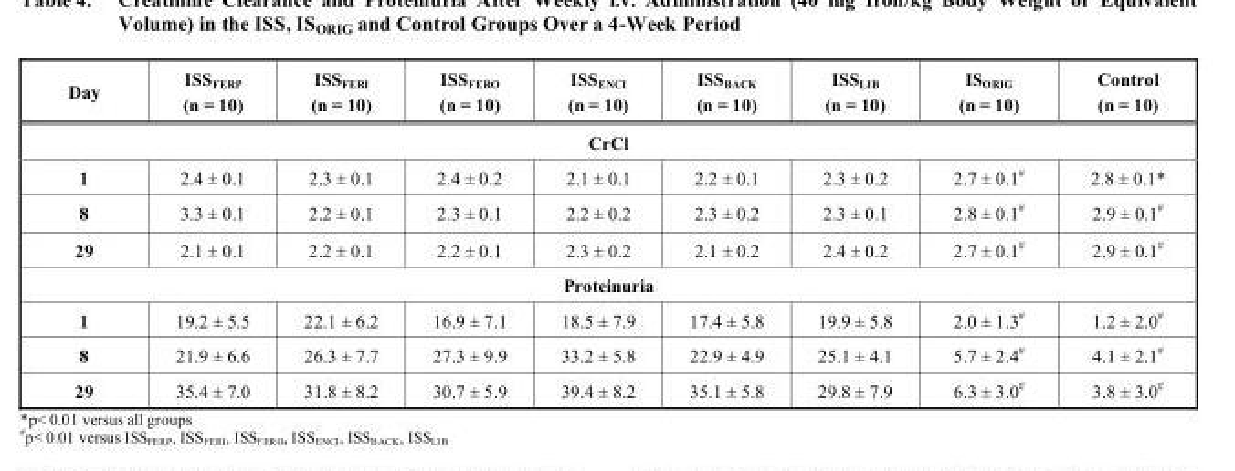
<table><thead><tr><td>Day</td><td>ISS<sub>FERP</sub> (n = 10)</td><td>ISS<sub>FERI</sub> (n = 10)</td><td>ISS<sub>FERO</sub> (n = 10)</td><td>ISS<sub>ENCI</sub> (n = 10)</td><td>ISS<sub>BACK</sub> (n = 10)</td><td>ISS<sub>LIB</sub> (n = 10)</td><td>IS<sub>ORIG</sub> (n = 10)</td><td>Control (n = 10)</td></tr></thead><tbody><tr><td colspan="9">CrCl</td></tr><tr><td>1</td><td>2.4 ± 0.1</td><td>2.3 ± 0.1</td><td>2.4 ± 0.2</td><td>2.1 ± 0.1</td><td>2.2 ± 0.1</td><td>2.3 ± 0.2</td><td>2.7 ± 0.1#</td><td>2.8 ± 0.1*</td></tr><tr><td>8</td><td>3.3 ± 0.1</td><td>2.2 ± 0.1</td><td>2.3 ± 0.1</td><td>2.2 ± 0.2</td><td>2.3 ± 0.2</td><td>2.3 ± 0.1</td><td>2.8 ± 0.1#</td><td>2.9 ± 0.1#</td></tr><tr><td>29</td><td>2.1 ± 0.1</td><td>2.2 ± 0.1</td><td>2.2 ± 0.1</td><td>2.3 ± 0.2</td><td>2.1 ± 0.2</td><td>2.4 ± 0.2</td><td>2.7 ± 0.1#</td><td>2.9 ± 0.1#</td></tr><tr><td colspan="9">Proteinuria</td></tr><tr><td>1</td><td>19.2 ± 5.5</td><td>22.1 ± 6.2</td><td>16.9 ± 7.1</td><td>18.5 ± 7.9</td><td>17.4 ± 5.8</td><td>19.9 ± 5.8</td><td>2.0 ± 1.3#</td><td>1.2 ± 2.0#</td></tr><tr><td>8</td><td>21.9 ± 6.6</td><td>26.3 ± 7.7</td><td>27.3 ± 9.9</td><td>33.2 ± 5.8</td><td>22.9 ± 4.9</td><td>25.1 ± 4.1</td><td>5.7 ± 2.4#</td><td>4.1 ± 2.1#</td></tr><tr><td>29</td><td>35.4 ± 7.0</td><td>31.8 ± 8.2</td><td>30.7 ± 5.9</td><td>39.4 ± 8.2</td><td>35.1 ± 5.8</td><td>29.8 ± 7.9</td><td>6.3 ± 3.0#</td><td>3.8 ± 3.0#</td></tr></tbody></table>